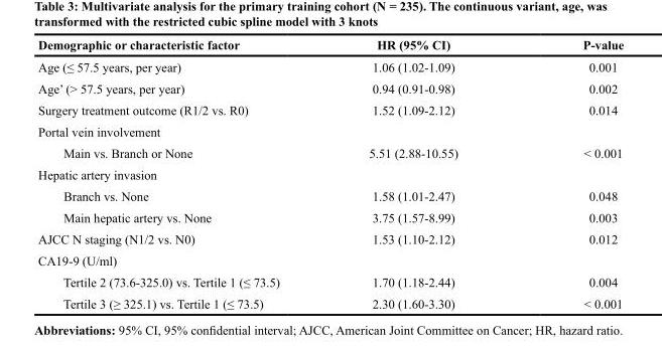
<table><thead><tr><td>Demographic or characteristic factor</td><td>HR (95% CI)</td><td>P-value</td></tr></thead><tbody><tr><td>Age (≤ 57.5 years, per year)</td><td>1.06 (1.02-1.09)</td><td>0.001</td></tr><tr><td>Age’ (&gt; 57.5 years, per year)</td><td>0.94 (0.91-0.98)</td><td>0.002</td></tr><tr><td>Surgery treatment outcome (R1/2 vs. R0)</td><td>1.52 (1.09-2.12)</td><td>0.014</td></tr><tr><td colspan="3">Portal vein involvement</td></tr><tr><td>Main vs. Branch or None</td><td>5.51 (2.88-10.55)</td><td>&lt; 0.001</td></tr><tr><td colspan="3">Hepatic artery invasion</td></tr><tr><td>Branch vs. None</td><td>1.58 (1.01-2.47)</td><td>0.048</td></tr><tr><td>Main hepatic artery vs. None</td><td>3.75 (1.57-8.99)</td><td>0.003</td></tr><tr><td>AJCC N staging (N1/2 vs. N0)</td><td>1.53 (1.10-2.12)</td><td>0.012</td></tr><tr><td colspan="3">CA19-9 (U/ml)</td></tr><tr><td>Tertile 2 (73.6-325.0) vs. Tertile 1 (≤ 73.5)</td><td>1.70 (1.18-2.44)</td><td>0.004</td></tr><tr><td>Tertile 3 (≥ 325.1) vs. Tertile 1 (≤ 73.5)</td><td>2.30 (1.60-3.30)</td><td>&lt; 0.001</td></tr></tbody></table>